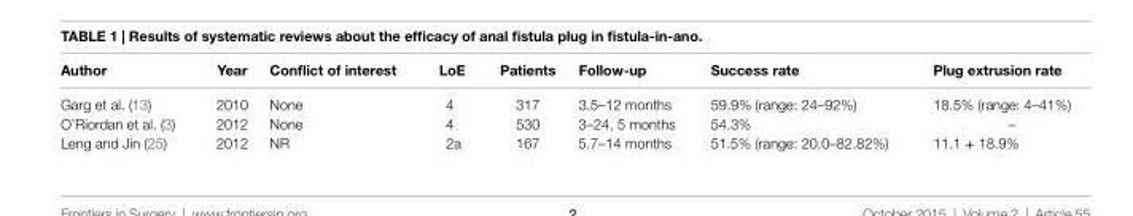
<table><thead><tr><td>Author</td><td>Year</td><td>Conflict of interest</td><td>Loe</td><td>Patients</td><td>Follow-up</td><td>Success rate</td><td>Plug extrusion rate</td></tr></thead><tbody><tr><td>Garg et al. (13)</td><td>2010</td><td>None</td><td>4</td><td>317</td><td>3.5–12 months</td><td>59.9% (range: 24–92%)</td><td>18.5% (range: 4–41%)</td></tr><tr><td>O’Riordan et al. (3)</td><td>2012</td><td>None</td><td>4</td><td>530</td><td>3–24, 5 months</td><td>54.3%</td><td>–</td></tr><tr><td>Leng and Jin (25)</td><td>2012</td><td>NR</td><td>2a</td><td>167</td><td>5.7–14 months</td><td>51.5% (range: 20.0–82.82%)</td><td>11.1 + 18.9%</td></tr></tbody></table>